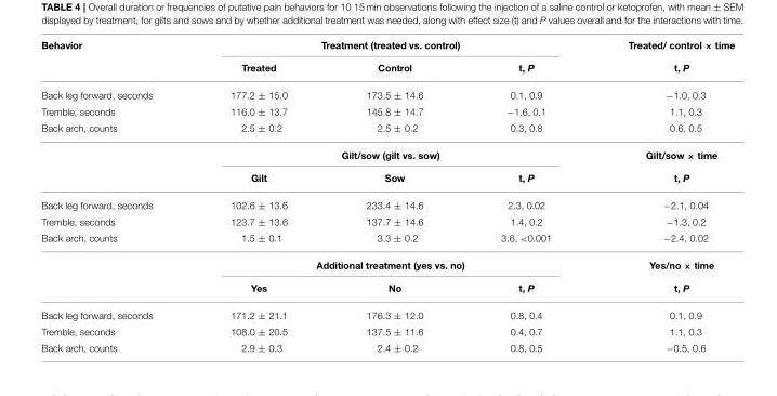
<table><thead><tr><td rowspan="2">Behavior</td><td colspan="3">Treatment (treated vs. control)</td><td rowspan="2">Treated/ control × time t, P</td></tr><tr><td>Treated</td><td>Control</td><td>t, P</td></tr></thead><tbody><tr><td>Back leg forward, seconds</td><td>177.2 ± 15.0</td><td>173.5 ± 14.6</td><td>0.1, 0.9</td><td>−1.0, 0.3</td></tr><tr><td>Tremble, seconds</td><td>116.0 ± 13.7</td><td>145.8 ± 14.7</td><td>−1.6, 0.1</td><td>1.1, 0.3</td></tr><tr><td rowspan="3">Back arch, counts</td><td>2.5 ± 0.2</td><td>2.5 ± 0.2</td><td>0.3, 0.8</td><td>0.6, 0.5</td></tr><tr><td colspan="3">Gilt/sow (gilt vs. sow)</td><td>Gilt/sow × time</td></tr><tr><td>Gilt</td><td>Sow</td><td>t, P</td><td>t, P</td></tr><tr><td>Back leg forward, seconds</td><td>102.6 ± 13.6</td><td>233.4 ± 14.6</td><td>2.3, 0.02</td><td>−2.1, 0.04</td></tr><tr><td>Tremble, seconds</td><td>123.7 ± 13.6</td><td>137.7 ± 14.6</td><td>1.4, 0.2</td><td>−1.3, 0.2</td></tr><tr><td rowspan="3">Back arch, counts</td><td>1.5 ± 0.1</td><td>3.3 ± 0.2</td><td>3.6, &lt;0.001</td><td>−2.4, 0.02</td></tr><tr><td colspan="3">Additional treatment (yes vs. no)</td><td>Yes/no × time</td></tr><tr><td>Yes</td><td>No</td><td>t, P</td><td>t, P</td></tr><tr><td>Back leg forward, seconds</td><td>171.2 ± 21.1</td><td>176.3 ± 12.0</td><td>0.8, 0.4</td><td>0.1, 0.9</td></tr><tr><td>Tremble, seconds</td><td>108.0 ± 20.5</td><td>137.5 ± 11.6</td><td>0.4, 0.7</td><td>1.1, 0.3</td></tr><tr><td>Back arch, counts</td><td>2.9 ± 0.3</td><td>2.4 ± 0.2</td><td>0.8, 0.5</td><td>−0.5, 0.6</td></tr></tbody></table>